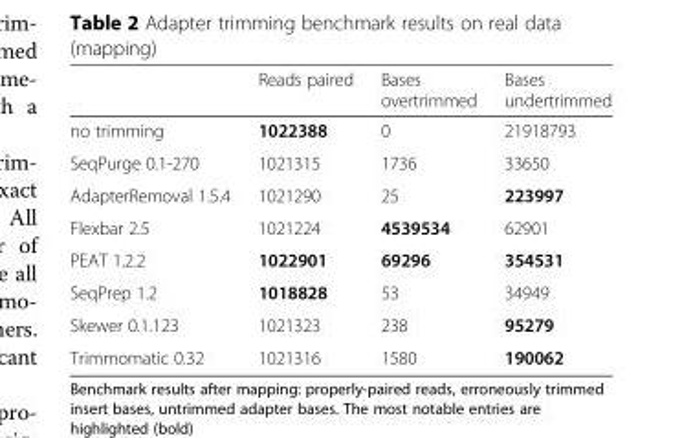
<table><thead><tr><td></td><td>Reads paired</td><td>Bases overtrimmed</td><td>Bases undertrimmed</td></tr></thead><tbody><tr><td>no trimming</td><td>1022388</td><td>0</td><td>21918793</td></tr><tr><td>SeqPurge 0.1-270</td><td>1021315</td><td>1736</td><td>33650</td></tr><tr><td>AdapterRemoval 1.5.4</td><td>1021290</td><td>25</td><td>223997</td></tr><tr><td>Flexbar 2.5</td><td>1021224</td><td>4539534</td><td>62901</td></tr><tr><td>PEAT 1.2.2</td><td>1022901</td><td>69296</td><td>354531</td></tr><tr><td>SeqPrep 1.2</td><td>1018828</td><td>53</td><td>34949</td></tr><tr><td>Skewer 0.1.123</td><td>1021323</td><td>238</td><td>95279</td></tr><tr><td>Trimmomatic 0.32</td><td>1021316</td><td>1580</td><td>190062</td></tr></tbody></table>